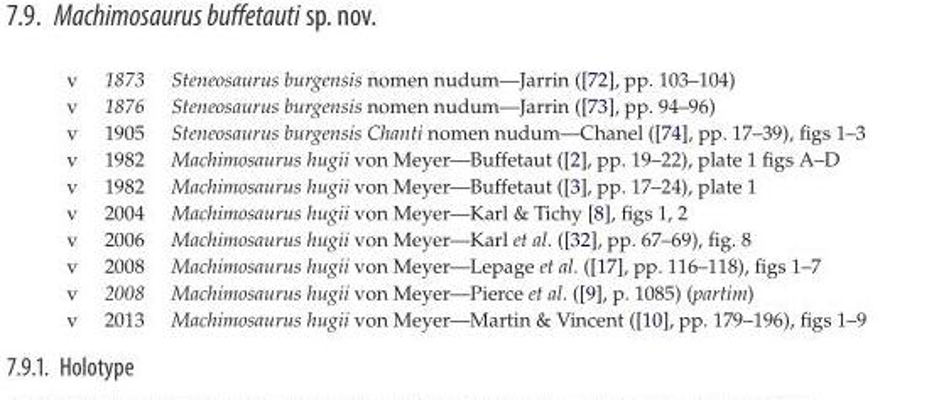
<table><tbody><tr><td>v</td><td>1873</td><td>Steneosaurus burgensis nomen nudum—Jarrin ([72], pp. 103–104)</td></tr><tr><td>v</td><td>1876</td><td>Steneosaurus burgensis nomen nudum—Jarrin ([73], pp. 94–96)</td></tr><tr><td>v</td><td>1905</td><td>Steneosaurus burgensis Chanti nomen nudum—Chanel ([74], pp. 17–39), figs 1–3</td></tr><tr><td>v</td><td>1982</td><td>Machimosaurus hugii von Meyer—Buffetaut ([2], pp. 19–22), plate 1 figs A–D</td></tr><tr><td>v</td><td>1982</td><td>Machimosaurus hugii von Meyer—Buffetaut ([3], pp. 17–24), plate 1</td></tr><tr><td>v</td><td>2004</td><td>Machimosaurus hugii von Meyer—Karl &amp; Tichy [8], figs 1, 2</td></tr><tr><td>v</td><td>2006</td><td>Machimosaurus hugii von Meyer—Karl et al. ([32], pp. 67–69), fig. 8</td></tr><tr><td>v</td><td>2008</td><td>Machimosaurus hugii von Meyer—Lepage et al. ([17], pp. 116–118), figs 1–7</td></tr><tr><td>v</td><td>2008</td><td>Machimosaurus hugii von Meyer—Pierce et al. ([9], p. 1085) (partim)</td></tr><tr><td>v</td><td>2013</td><td>Machimosaurus hugii von Meyer—Martin &amp; Vincent ([10], pp. 179–196), figs 1–9</td></tr></tbody></table>